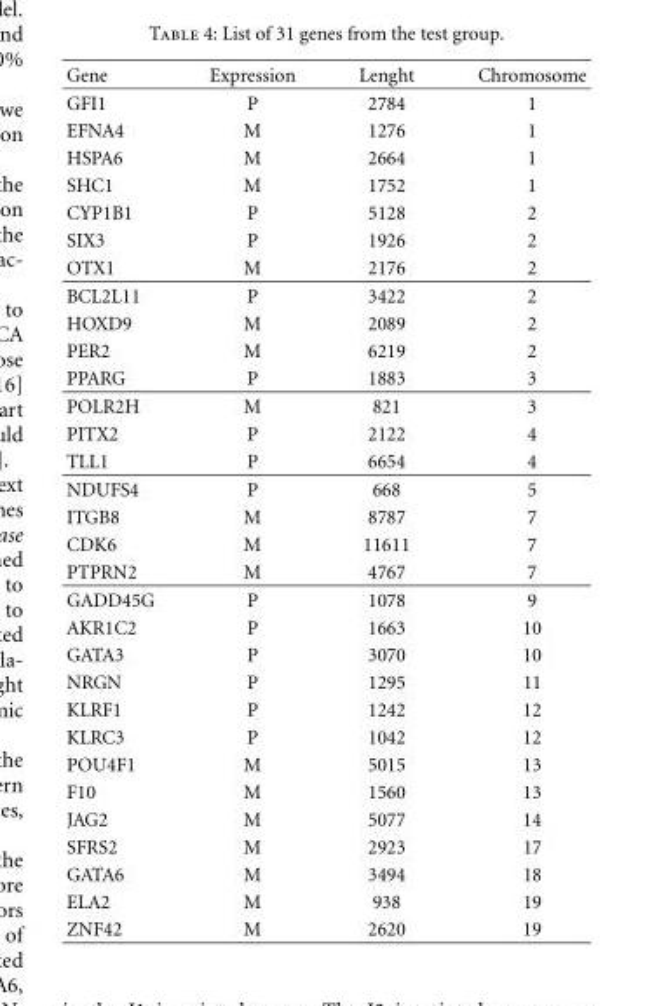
<table><thead><tr><td>Gene</td><td>Expression</td><td>Lenght</td><td>Chromosome</td></tr></thead><tbody><tr><td>GFI1</td><td>P</td><td>2784</td><td>1</td></tr><tr><td>EFNA4</td><td>M</td><td>1276</td><td>1</td></tr><tr><td>HSPA6</td><td>M</td><td>2664</td><td>1</td></tr><tr><td>SHC1</td><td>M</td><td>1752</td><td>1</td></tr><tr><td>CYP1B1</td><td>P</td><td>5128</td><td>2</td></tr><tr><td>SIX3</td><td>P</td><td>1926</td><td>2</td></tr><tr><td>OTX1</td><td>M</td><td>2176</td><td>2</td></tr><tr><td>BCL2L11</td><td>P</td><td>3422</td><td>2</td></tr><tr><td>HOXD9</td><td>M</td><td>2089</td><td>2</td></tr><tr><td>PER2</td><td>M</td><td>6219</td><td>2</td></tr><tr><td>PPARG</td><td>P</td><td>1883</td><td>3</td></tr><tr><td>POLR2H</td><td>M</td><td>821</td><td>3</td></tr><tr><td>PITX2</td><td>P</td><td>2122</td><td>4</td></tr><tr><td>TLL1</td><td>P</td><td>6654</td><td>4</td></tr><tr><td>NDUFS4</td><td>P</td><td>668</td><td>5</td></tr><tr><td>ITGB8</td><td>M</td><td>8787</td><td>7</td></tr><tr><td>CDK6</td><td>M</td><td>11611</td><td>7</td></tr><tr><td>PTPRN2</td><td>M</td><td>4767</td><td>7</td></tr><tr><td>GADD45G</td><td>P</td><td>1078</td><td>9</td></tr><tr><td>AKR1C2</td><td>P</td><td>1663</td><td>10</td></tr><tr><td>GATA3</td><td>P</td><td>3070</td><td>10</td></tr><tr><td>NRGN</td><td>P</td><td>1295</td><td>11</td></tr><tr><td>KLRF1</td><td>P</td><td>1242</td><td>12</td></tr><tr><td>KLRC3</td><td>P</td><td>1042</td><td>12</td></tr><tr><td>POU4F1</td><td>M</td><td>5015</td><td>13</td></tr><tr><td>F10</td><td>M</td><td>1560</td><td>13</td></tr><tr><td>JAG2</td><td>M</td><td>5077</td><td>14</td></tr><tr><td>SFRS2</td><td>M</td><td>2923</td><td>17</td></tr><tr><td>GATA6</td><td>M</td><td>3494</td><td>18</td></tr><tr><td>ELA2</td><td>M</td><td>938</td><td>19</td></tr><tr><td>ZNF42</td><td>M</td><td>2620</td><td>19</td></tr></tbody></table>